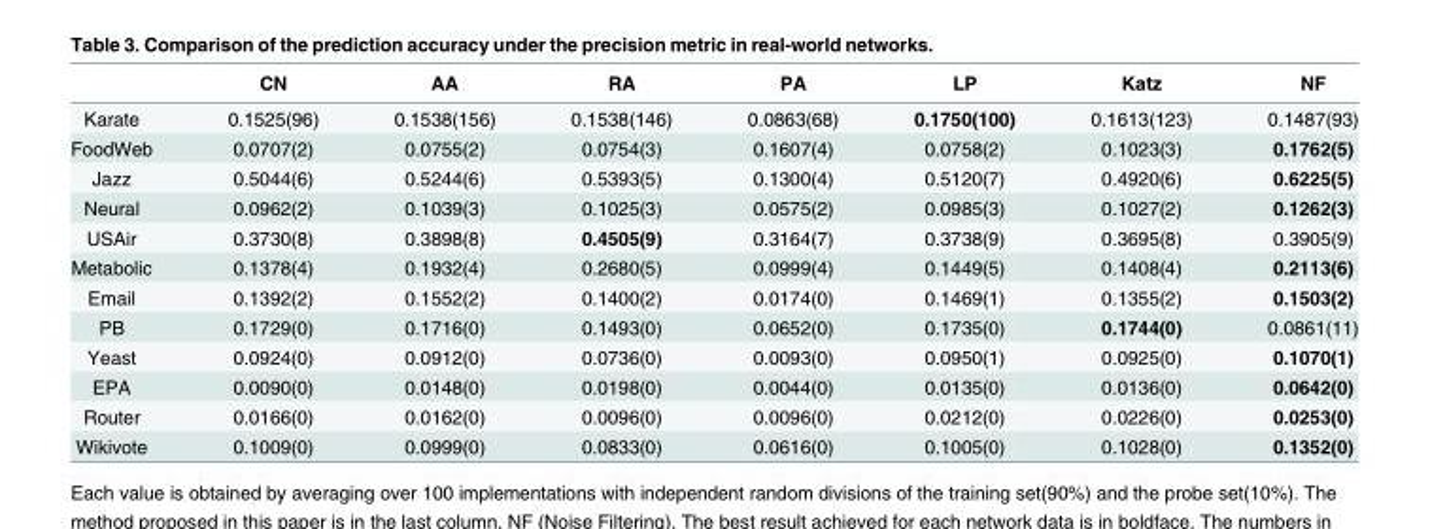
<table><thead><tr><td></td><td>CN</td><td>AA</td><td>RA</td><td>PA</td><td>LP</td><td>Katz</td><td>NF</td></tr></thead><tbody><tr><td>Karate</td><td>0.1525(96)</td><td>0.1538(156)</td><td>0.1538(146)</td><td>0.0863(68)</td><td>0.1750(100)</td><td>0.1613(123)</td><td>0.1487(93)</td></tr><tr><td>FoodWeb</td><td>0.0707(2)</td><td>0.0755(2)</td><td>0.0754(3)</td><td>0.1607(4)</td><td>0.0758(2)</td><td>0.1023(3)</td><td>0.1762(5)</td></tr><tr><td>Jazz</td><td>0.5044(6)</td><td>0.5244(6)</td><td>0.5393(5)</td><td>0.1300(4)</td><td>0.5120(7)</td><td>0.4920(6)</td><td>0.6225(5)</td></tr><tr><td>Neural</td><td>0.0962(2)</td><td>0.1039(3)</td><td>0.1025(3)</td><td>0.0575(2)</td><td>0.0985(3)</td><td>0.1027(2)</td><td>0.1262(3)</td></tr><tr><td>USAir</td><td>0.3730(8)</td><td>0.3898(8)</td><td>0.4505(9)</td><td>0.3164(7)</td><td>0.3738(9)</td><td>0.3695(8)</td><td>0.3905(9)</td></tr><tr><td>Metabolic</td><td>0.1378(4)</td><td>0.1932(4)</td><td>0.2680(5)</td><td>0.0999(4)</td><td>0.1449(5)</td><td>0.1408(4)</td><td>0.2113(6)</td></tr><tr><td>Email</td><td>0.1392(2)</td><td>0.1552(2)</td><td>0.1400(2)</td><td>0.0174(0)</td><td>0.1469(1)</td><td>0.1355(2)</td><td>0.1503(2)</td></tr><tr><td>PB</td><td>0.1729(0)</td><td>0.1716(0)</td><td>0.1493(0)</td><td>0.0652(0)</td><td>0.1735(0)</td><td>0.1744(0)</td><td>0.0861(11)</td></tr><tr><td>Yeast</td><td>0.0924(0)</td><td>0.0912(0)</td><td>0.0736(0)</td><td>0.0093(0)</td><td>0.0950(1)</td><td>0.0925(0)</td><td>0.1070(1)</td></tr><tr><td>EPA</td><td>0.0090(0)</td><td>0.0148(0)</td><td>0.0198(0)</td><td>0.0044(0)</td><td>0.0135(0)</td><td>0.0136(0)</td><td>0.0642(0)</td></tr><tr><td>Router</td><td>0.0166(0)</td><td>0.0162(0)</td><td>0.0096(0)</td><td>0.0096(0)</td><td>0.0212(0)</td><td>0.0226(0)</td><td>0.0253(0)</td></tr><tr><td>Wikivote</td><td>0.1009(0)</td><td>0.0999(0)</td><td>0.0833(0)</td><td>0.0616(0)</td><td>0.1005(0)</td><td>0.1028(0)</td><td>0.1352(0)</td></tr></tbody></table>